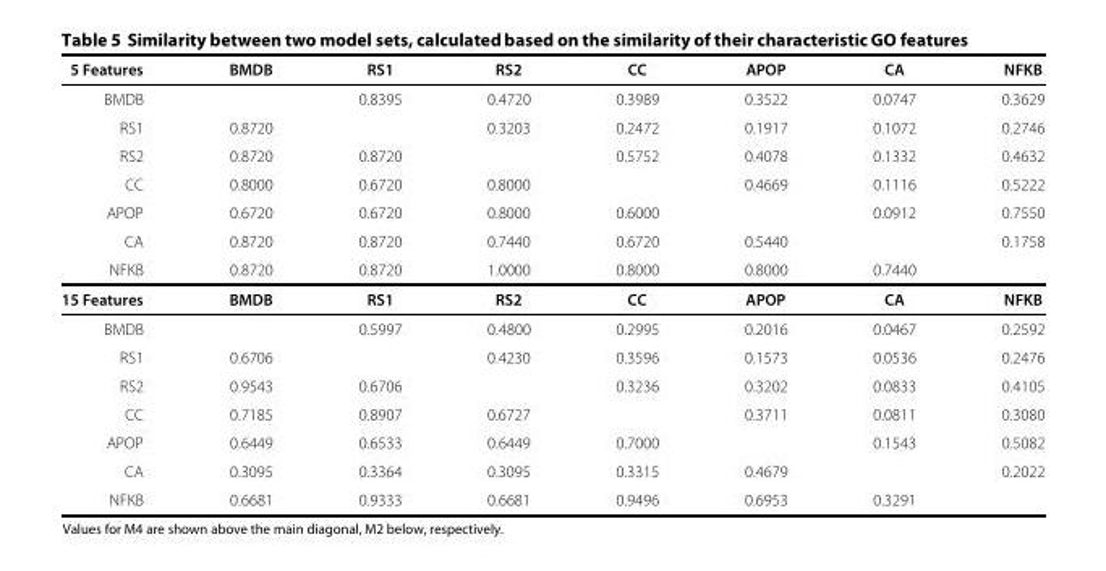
<table><thead><tr><td>5 Features</td><td>BMDB</td><td>RS1</td><td>RS2</td><td>CC</td><td>APOP</td><td>CA</td><td>NFKB</td></tr></thead><tbody><tr><td>BMDB</td><td></td><td>0.8395</td><td>0.4720</td><td>0.3989</td><td>0.3522</td><td>0.0747</td><td>0.3629</td></tr><tr><td>RS1</td><td>0.8720</td><td></td><td>0.3203</td><td>0.2472</td><td>0.1917</td><td>0.1072</td><td>0.2746</td></tr><tr><td>RS2</td><td>0.8720</td><td>0.8720</td><td></td><td>0.5752</td><td>0.4078</td><td>0.1332</td><td>0.4632</td></tr><tr><td>CC</td><td>0.8000</td><td>0.6720</td><td>0.8000</td><td></td><td>0.4669</td><td>0.1116</td><td>0.5222</td></tr><tr><td>APOP</td><td>0.6720</td><td>0.6720</td><td>0.8000</td><td>0.6000</td><td></td><td>0.0912</td><td>0.7550</td></tr><tr><td>CA</td><td>0.8720</td><td>0.8720</td><td>0.7440</td><td>0.6720</td><td>0.5440</td><td></td><td>0.1758</td></tr><tr><td>NFKB</td><td>0.8720</td><td>0.8720</td><td>1.0000</td><td>0.8000</td><td>0.8000</td><td>0.7440</td><td></td></tr><tr><td>15 Features</td><td>BMDB</td><td>RS1</td><td>RS2</td><td>CC</td><td>APOP</td><td>CA</td><td>NFKB</td></tr><tr><td>BMDB</td><td></td><td>0.5997</td><td>0.4800</td><td>0.2995</td><td>0.2016</td><td>0.0467</td><td>0.2592</td></tr><tr><td>RS1</td><td>0.6706</td><td></td><td>0.4230</td><td>0.3596</td><td>0.1573</td><td>0.0536</td><td>0.2476</td></tr><tr><td>RS2</td><td>0.9543</td><td>0.6706</td><td></td><td>0.3236</td><td>0.3202</td><td>0.0833</td><td>0.4105</td></tr><tr><td>CC</td><td>0.7185</td><td>0.8907</td><td>0.6727</td><td></td><td>0.3711</td><td>0.0811</td><td>0.3080</td></tr><tr><td>APOP</td><td>0.6449</td><td>0.6533</td><td>0.6449</td><td>0.7000</td><td></td><td>0.1543</td><td>0.5082</td></tr><tr><td>CA</td><td>0.3095</td><td>0.3364</td><td>0.3095</td><td>0.3315</td><td>0.4679</td><td></td><td>0.2022</td></tr><tr><td>NFKB</td><td>0.6681</td><td>0.9333</td><td>0.6681</td><td>0.9496</td><td>0.6953</td><td>0.3291</td><td></td></tr></tbody></table>